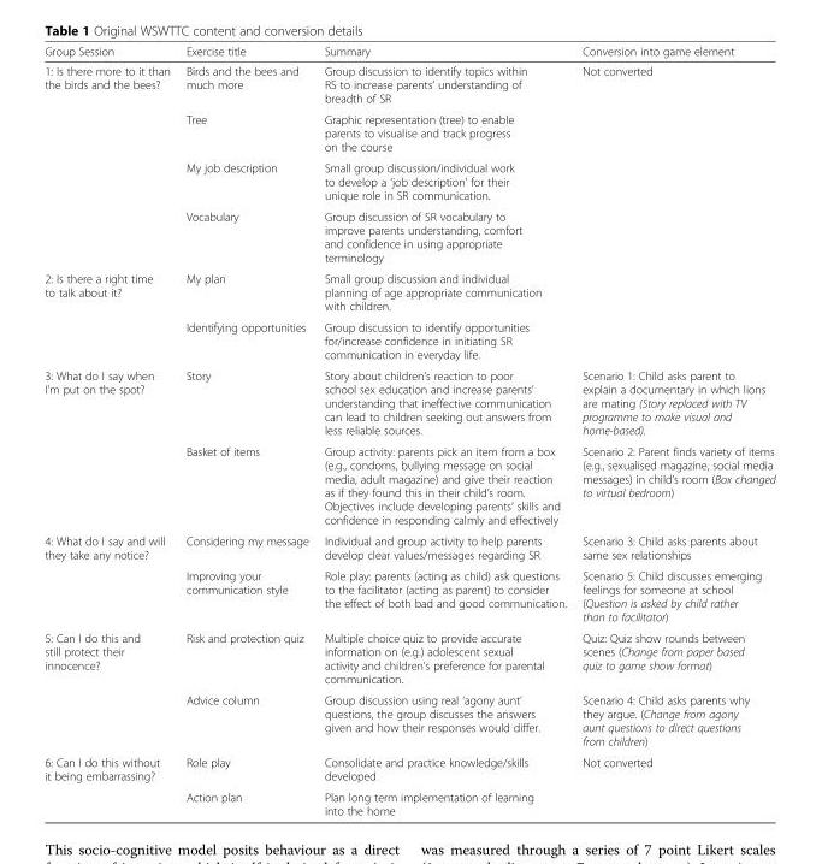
<table><thead><tr><td>Group Session</td><td>Exercise title</td><td>Summary</td><td>Conversion into game element</td></tr></thead><tbody><tr><td rowspan="4">1: Is there more to it than the birds and the bees?</td><td>Birds and the bees and much more</td><td>Group discussion to identify topics within RS to increase parents’ understanding of breadth of SR</td><td rowspan="6">Not converted</td></tr><tr><td>Tree</td><td>Graphic representation (tree) to enable parents to visualise and track progress on the course</td></tr><tr><td>My job description</td><td>Small group discussion/individual work to develop a ‘job description’ for their unique role in SR communication.</td></tr><tr><td>Vocabulary</td><td>Group discussion of SR vocabulary to improve parents understanding, comfort and confidence in using appropriate terminology</td></tr><tr><td rowspan="2">2: Is there a right time to talk about it?</td><td>My plan</td><td>Small group discussion and individual planning of age appropriate communication with children.</td></tr><tr><td>Identifying opportunities</td><td>Group discussion to identify opportunities for/increase confidence in initiating SR communication in everyday life.</td></tr><tr><td rowspan="2">3: What do I say when I’m put on the spot?</td><td>Story</td><td>Story about children’s reaction to poor school sex education and increase parents’ understanding that ineffective communication can lead to children seeking out answers from less reliable sources.</td><td>Scenario 1: Child asks parent to explain a documentary in which lions are mating (Story replaced with TV programme to make visual and home-based).</td></tr><tr><td>Basket of items</td><td>Group activity: parents pick an item from a box (e.g., condoms, bullying message on social media, adult magazine) and give their reaction as if they found this in their child’s room. Objectives include developing parents’ skills and confidence in responding calmly and effectively</td><td>Scenario 2: Parent finds variety of items (e.g., sexualised magazine, social media messages) in child’s room (Box changed to virtual bedroom)</td></tr><tr><td rowspan="2">4: What do I say and will they take any notice?</td><td>Considering my message</td><td>Individual and group activity to help parents develop clear values/messages regarding SR</td><td>Scenario 3: Child asks parents about same sex relationships</td></tr><tr><td>Improving your communication style</td><td>Role play: parents (acting as child) ask questions to the facilitator (acting as parent) to consider the effect of both bad and good communication.</td><td>Scenario 5: Child discusses emerging feelings for someone at school (Question is asked by child rather than to facilitator)</td></tr><tr><td rowspan="2">5: Can I do this and still protect their innocence?</td><td>Risk and protection quiz</td><td>Multiple choice quiz to provide accurate information on (e.g.) adolescent sexual activity and children’s preference for parental communication.</td><td>Quiz: Quiz show rounds between scenes (Change from paper based quiz to game show format)</td></tr><tr><td>Advice column</td><td>Group discussion using real ‘agony aunt’ questions, the group discusses the answers given and how their responses would differ.</td><td>Scenario 4: Child asks parents why they argue. (Change from agony aunt questions to direct questions from children)</td></tr><tr><td rowspan="2">6: Can I do this without it being embarrassing?</td><td>Role play</td><td>Consolidate and practice knowledge/skills developed</td><td rowspan="2">Not converted</td></tr><tr><td>Action plan</td><td>Plan long term implementation of learning into the home</td></tr></tbody></table>